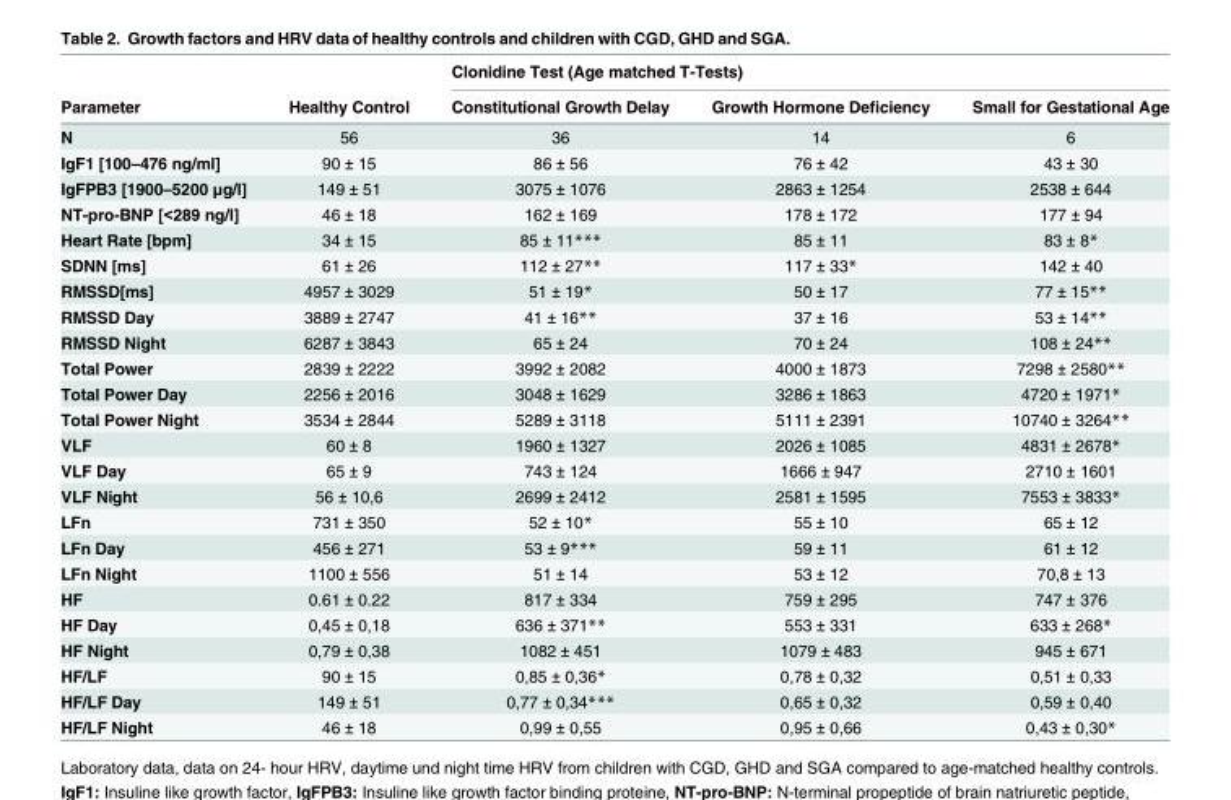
<table><thead><tr><td rowspan="2">Parameter</td><td rowspan="2">Healthy Control</td><td colspan="3">Clonidine Test (Age matched T-Tests)</td></tr><tr><td>Constitutional Growth Delay</td><td>Growth Hormone Deficiency</td><td>Small for Gestational Age</td></tr></thead><tbody><tr><td>N</td><td>56</td><td>36</td><td>14</td><td>6</td></tr><tr><td>IgF1 [100–476 ng/ml]</td><td>90 ± 15</td><td>86 ± 56</td><td>76 ± 42</td><td>43 ± 30</td></tr><tr><td>IgFPB3 [1900–5200 μg/l]</td><td>149 ± 51</td><td>3075 ± 1076</td><td>2863 ± 1254</td><td>2538 ± 644</td></tr><tr><td>NT-pro-BNP [&lt;289 ng/l]</td><td>46 ± 18</td><td>162 ± 169</td><td>178 ± 172</td><td>177 ± 94</td></tr><tr><td>Heart Rate [bpm]</td><td>34 ± 15</td><td>85 ± 11***</td><td>85 ± 11</td><td>83 ± 8*</td></tr><tr><td>SDNN [ms]</td><td>61 ± 26</td><td>112 ± 27**</td><td>117 ± 33*</td><td>142 ± 40</td></tr><tr><td>RMSSD[ms]</td><td>4957 ± 3029</td><td>51 ± 19*</td><td>50 ± 17</td><td>77 ± 15**</td></tr><tr><td>RMSSD Day</td><td>3889 ± 2747</td><td>41 ± 16**</td><td>37 ± 16</td><td>53 ± 14**</td></tr><tr><td>RMSSD Night</td><td>6287 ± 3843</td><td>65 ± 24</td><td>70 ± 24</td><td>108 ± 24**</td></tr><tr><td>Total Power</td><td>2839 ± 2222</td><td>3992 ± 2082</td><td>4000 ± 1873</td><td>7298 ± 2580**</td></tr><tr><td>Total Power Day</td><td>2256 ± 2016</td><td>3048 ± 1629</td><td>3286 ± 1863</td><td>4720 ± 1971*</td></tr><tr><td>Total Power Night</td><td>3534 ± 2844</td><td>5289 ± 3118</td><td>5111 ± 2391</td><td>10740 ± 3264**</td></tr><tr><td>VLF</td><td>60 ± 8</td><td>1960 ± 1327</td><td>2026 ± 1085</td><td>4831 ± 2678*</td></tr><tr><td>VLF Day</td><td>65 ± 9</td><td>743 ± 124</td><td>1666 ± 947</td><td>2710 ± 1601</td></tr><tr><td>VLF Night</td><td>56 ± 10,6</td><td>2699 ± 2412</td><td>2581 ± 1595</td><td>7553 ± 3833*</td></tr><tr><td>LFn</td><td>731 ± 350</td><td>52 ± 10*</td><td>55 ± 10</td><td>65 ± 12</td></tr><tr><td>LFn Day</td><td>456 ± 271</td><td>53 ± 9***</td><td>59 ± 11</td><td>61 ± 12</td></tr><tr><td>LFn Night</td><td>1100 ± 556</td><td>51 ± 14</td><td>53 ± 12</td><td>70,8 ± 13</td></tr><tr><td>HF</td><td>0.61 ± 0.22</td><td>817 ± 334</td><td>759 ± 295</td><td>747 ± 376</td></tr><tr><td>HF Day</td><td>0,45 ± 0,18</td><td>636 ± 371**</td><td>553 ± 331</td><td>633 ± 268*</td></tr><tr><td>HF Night</td><td>0,79 ± 0,38</td><td>1082 ± 451</td><td>1079 ± 483</td><td>945 ± 671</td></tr><tr><td>HF/LF</td><td>90 ± 15</td><td>0,85 ± 0,36*</td><td>0,78 ± 0,32</td><td>0,51 ± 0,33</td></tr><tr><td>HF/LF Day</td><td>149 ± 51</td><td>0,77 ± 0,34***</td><td>0,65 ± 0,32</td><td>0,59 ± 0,40</td></tr><tr><td>HF/LF Night</td><td>46 ± 18</td><td>0,99 ± 0,55</td><td>0,95 ± 0,66</td><td>0,43 ± 0,30*</td></tr></tbody></table>